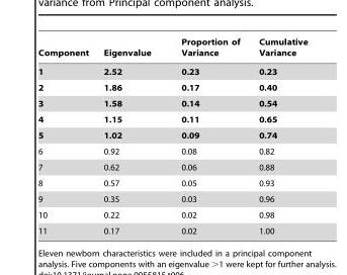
<table><thead><tr><td>Component</td><td>Eigenvalue</td><td>Proportion of Variance</td><td>Cumulative Variance</td></tr></thead><tbody><tr><td>1</td><td>2.52</td><td>0.23</td><td>0.23</td></tr><tr><td>2</td><td>1.86</td><td>0.17</td><td>0.40</td></tr><tr><td>3</td><td>1.58</td><td>0.14</td><td>0.54</td></tr><tr><td>4</td><td>1.15</td><td>0.11</td><td>0.65</td></tr><tr><td>5</td><td>1.02</td><td>0.09</td><td>0.74</td></tr><tr><td>6</td><td>0.92</td><td>0.08</td><td>0.82</td></tr><tr><td>7</td><td>0.62</td><td>0.06</td><td>0.88</td></tr><tr><td>8</td><td>0.57</td><td>0.05</td><td>0.93</td></tr><tr><td>9</td><td>0.35</td><td>0.03</td><td>0.96</td></tr><tr><td>10</td><td>0.22</td><td>0.02</td><td>0.98</td></tr><tr><td>11</td><td>0.17</td><td>0.02</td><td>1.00</td></tr></tbody></table>